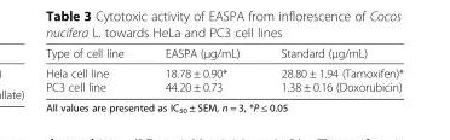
<table><thead><tr><td>Type of cell line</td><td>EASPA (μg/mL)</td><td>Standard (μg/mL)</td></tr></thead><tbody><tr><td>Hela cell line PC3 cell line</td><td>18.78 ± 0.90* 44.20 ± 0.73</td><td>28.80 ± 1.94 (Tamoxifen)* 1.38 ± 0.16 (Doxorubicin)</td></tr></tbody></table>